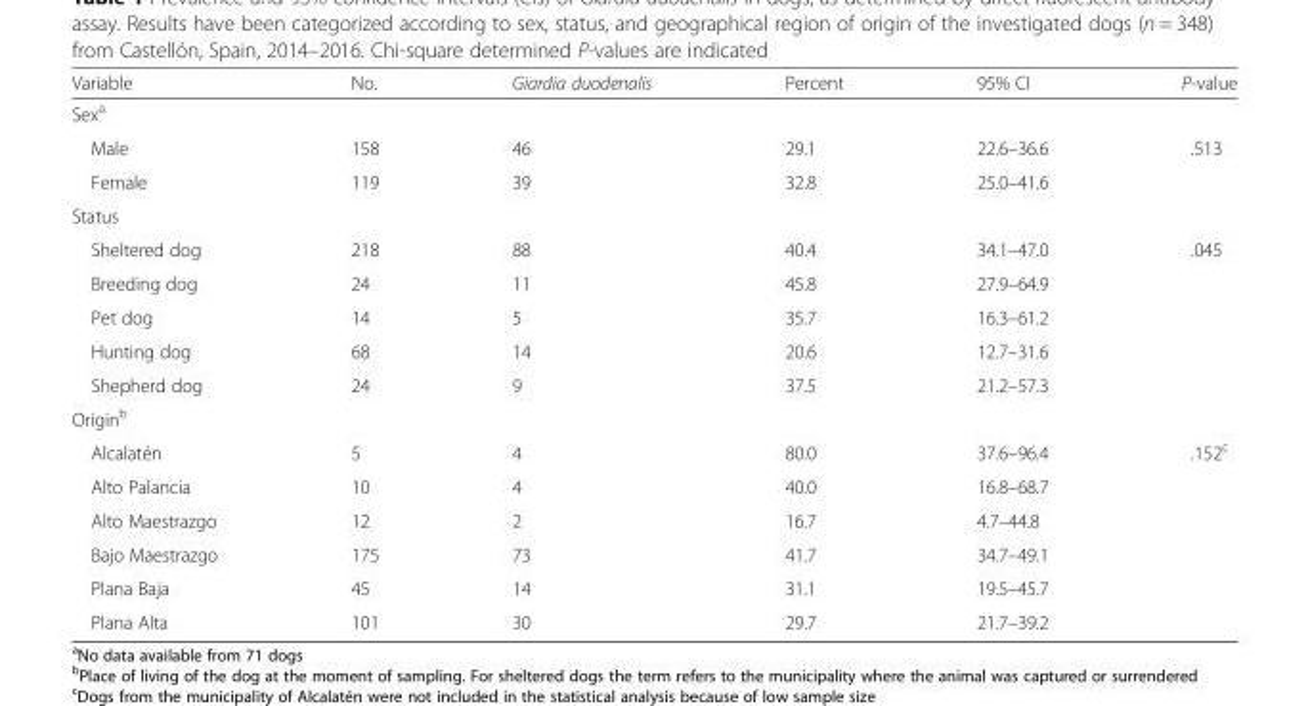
<table><thead><tr><td>Variable</td><td>No.</td><td>Giardia duodenalis</td><td>Percent</td><td>95% CI</td><td>P-value</td></tr></thead><tbody><tr><td colspan="6">Sex<sup>a</sup></td></tr><tr><td>Male</td><td>158</td><td>46</td><td>29.1</td><td>22.6–36.6</td><td>.513</td></tr><tr><td>Female</td><td>119</td><td>39</td><td>32.8</td><td>25.0–41.6</td><td></td></tr><tr><td colspan="6">Status</td></tr><tr><td>Sheltered dog</td><td>218</td><td>88</td><td>40.4</td><td>34.1–47.0</td><td>.045</td></tr><tr><td>Breeding dog</td><td>24</td><td>11</td><td>45.8</td><td>27.9–64.9</td><td></td></tr><tr><td>Pet dog</td><td>14</td><td>5</td><td>35.7</td><td>16.3–61.2</td><td></td></tr><tr><td>Hunting dog</td><td>68</td><td>14</td><td>20.6</td><td>12.7–31.6</td><td></td></tr><tr><td>Shepherd dog</td><td>24</td><td>9</td><td>37.5</td><td>21.2–57.3</td><td></td></tr><tr><td colspan="6">Origin<sup>b</sup></td></tr><tr><td>Alcalatén</td><td>5</td><td>4</td><td>80.0</td><td>37.6–96.4</td><td>.152<sup>c</sup></td></tr><tr><td>Alto Palancia</td><td>10</td><td>4</td><td>40.0</td><td>16.8–68.7</td><td></td></tr><tr><td>Alto Maestrazgo</td><td>12</td><td>2</td><td>16.7</td><td>4.7–44.8</td><td></td></tr><tr><td>Bajo Maestrazgo</td><td>175</td><td>73</td><td>41.7</td><td>34.7–49.1</td><td></td></tr><tr><td>Plana Baja</td><td>45</td><td>14</td><td>31.1</td><td>19.5–45.7</td><td></td></tr><tr><td>Plana Alta</td><td>101</td><td>30</td><td>29.7</td><td>21.7–39.2</td><td></td></tr></tbody></table>